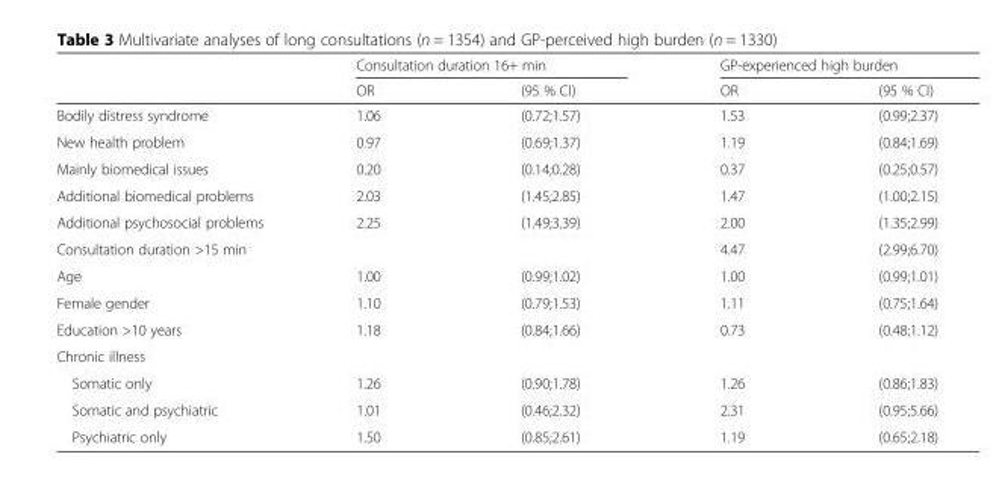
<table><thead><tr><td rowspan="2"></td><td colspan="2">Consultation duration 16+ min</td><td colspan="2">GP-experienced high burden</td></tr><tr><td>OR</td><td>(95 % CI)</td><td>OR</td><td>(95 % CI)</td></tr></thead><tbody><tr><td>Bodily distress syndrome</td><td>1.06</td><td>(0.72;1.57)</td><td>1.53</td><td>(0.99;2.37)</td></tr><tr><td>New health problem</td><td>0.97</td><td>(0.69;1.37)</td><td>1.19</td><td>(0.84;1.69)</td></tr><tr><td>Mainly biomedical issues</td><td>0.20</td><td>(0.14;0.28)</td><td>0.37</td><td>(0.25;0.57)</td></tr><tr><td>Additional biomedical problems</td><td>2.03</td><td>(1.45;2.85)</td><td>1.47</td><td>(1.00;2.15)</td></tr><tr><td>Additional psychosocial problems</td><td>2.25</td><td>(1.49;3.39)</td><td>2.00</td><td>(1.35;2.99)</td></tr><tr><td>Consultation duration &gt;15 min</td><td></td><td></td><td>4.47</td><td>(2.99;6.70)</td></tr><tr><td>Age</td><td>1.00</td><td>(0.99;1.02)</td><td>1.00</td><td>(0.99;1.01)</td></tr><tr><td>Female gender</td><td>1.10</td><td>(0.79;1.53)</td><td>1.11</td><td>(0.75;1.64)</td></tr><tr><td>Education &gt;10 years</td><td>1.18</td><td>(0.84;1.66)</td><td>0.73</td><td>(0.48;1.12)</td></tr><tr><td colspan="5">Chronic illness</td></tr><tr><td>Somatic only</td><td>1.26</td><td>(0.90;1.78)</td><td>1.26</td><td>(0.86;1.83)</td></tr><tr><td>Somatic and psychiatric</td><td>1.01</td><td>(0.46;2.32)</td><td>2.31</td><td>(0.95;5.66)</td></tr><tr><td>Psychiatric only</td><td>1.50</td><td>(0.85;2.61)</td><td>1.19</td><td>(0.65;2.18)</td></tr></tbody></table>